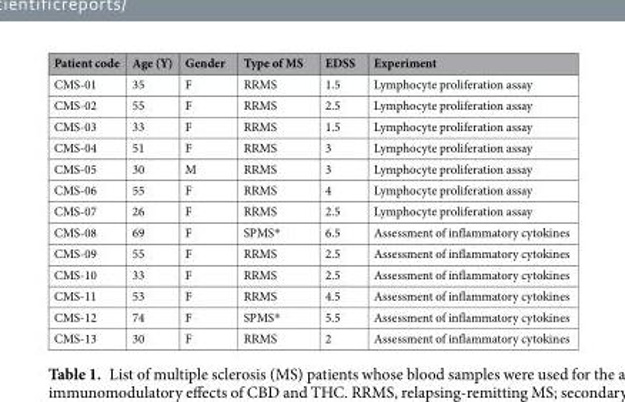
<table><thead><tr><td>Patient code</td><td>Age (Y)</td><td>Gender</td><td>Type of MS</td><td>EDSS</td><td>Experiment</td></tr></thead><tbody><tr><td>CMS-01</td><td>35</td><td>F</td><td>RRMS</td><td>1.5</td><td>Lymphocyte proliferation assay</td></tr><tr><td>CMS-02</td><td>55</td><td>F</td><td>RRMS</td><td>2.5</td><td>Lymphocyte proliferation assay</td></tr><tr><td>CMS-03</td><td>33</td><td>F</td><td>RRMS</td><td>1.5</td><td>Lymphocyte proliferation assay</td></tr><tr><td>CMS-04</td><td>51</td><td>F</td><td>RRMS</td><td>3</td><td>Lymphocyte proliferation assay</td></tr><tr><td>CMS-05</td><td>30</td><td>M</td><td>RRMS</td><td>3</td><td>Lymphocyte proliferation assay</td></tr><tr><td>CMS-06</td><td>55</td><td>F</td><td>RRMS</td><td>4</td><td>Lymphocyte proliferation assay</td></tr><tr><td>CMS-07</td><td>26</td><td>F</td><td>RRMS</td><td>2.5</td><td>Lymphocyte proliferation assay</td></tr><tr><td>CMS-08</td><td>69</td><td>F</td><td>SPMS*</td><td>6.5</td><td>Assessment of inflammatory cytokines</td></tr><tr><td>CMS-09</td><td>55</td><td>F</td><td>RRMS</td><td>2.5</td><td>Assessment of inflammatory cytokines</td></tr><tr><td>CMS-10</td><td>33</td><td>F</td><td>RRMS</td><td>2.5</td><td>Assessment of inflammatory cytokines</td></tr><tr><td>CMS-11</td><td>53</td><td>F</td><td>RRMS</td><td>4.5</td><td>Assessment of inflammatory cytokines</td></tr><tr><td>CMS-12</td><td>74</td><td>F</td><td>SPMS*</td><td>5.5</td><td>Assessment of inflammatory cytokines</td></tr><tr><td>CMS-13</td><td>30</td><td>F</td><td>RRMS</td><td>2</td><td>Assessment of inflammatory cytokines</td></tr></tbody></table>